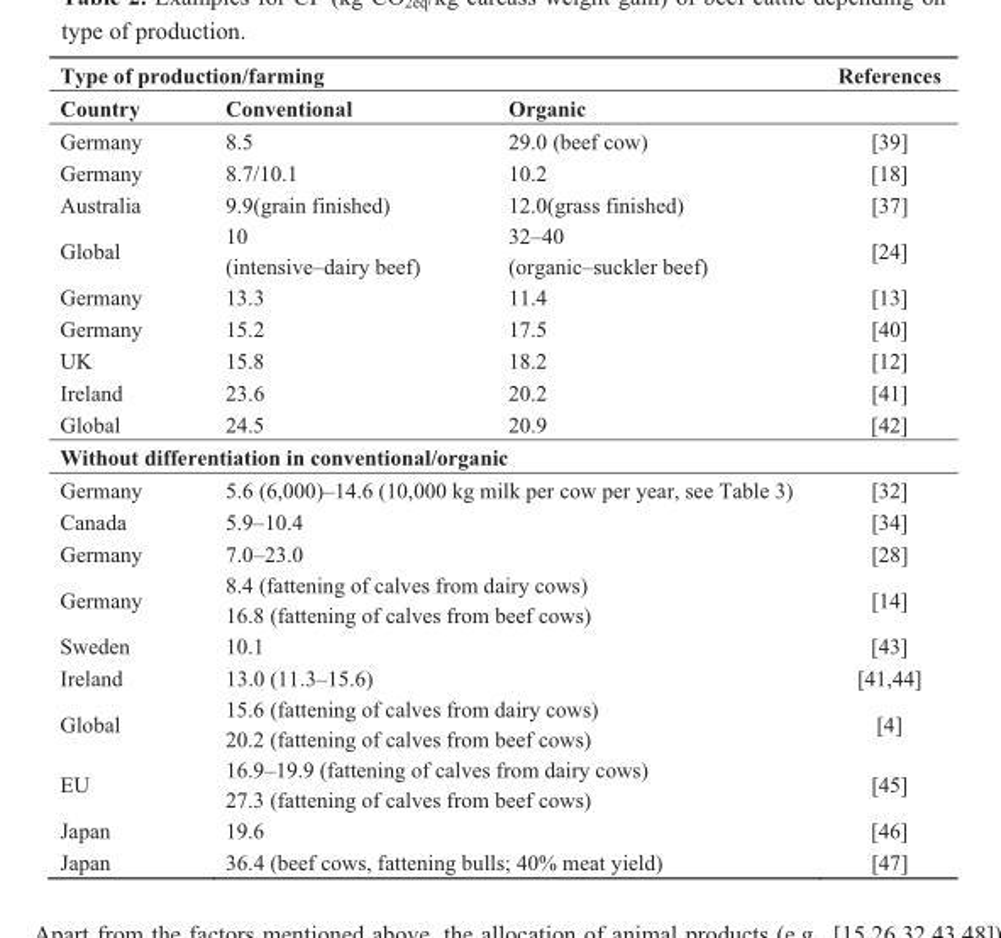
<table><thead><tr><td colspan="3">Type of production/farming</td><td rowspan="2">References</td></tr><tr><td>Country</td><td>Conventional</td><td>Organic</td></tr></thead><tbody><tr><td>Germany</td><td>8.5</td><td>29.0 (beef cow)</td><td>[39]</td></tr><tr><td>Germany</td><td>8.7/10.1</td><td>10.2</td><td>[18]</td></tr><tr><td>Australia</td><td>9.9(grain finished)</td><td>12.0(grass finished)</td><td>[37]</td></tr><tr><td rowspan="2">Global</td><td>10</td><td>32–40</td><td rowspan="2">[24]</td></tr><tr><td>(intensive–dairy beef)</td><td>(organic–suckler beef)</td></tr><tr><td>Germany</td><td>13.3</td><td>11.4</td><td>[13]</td></tr><tr><td>Germany</td><td>15.2</td><td>17.5</td><td>[40]</td></tr><tr><td>UK</td><td>15.8</td><td>18.2</td><td>[12]</td></tr><tr><td>Ireland</td><td>23.6</td><td>20.2</td><td>[41]</td></tr><tr><td>Global</td><td>24.5</td><td>20.9</td><td>[42]</td></tr><tr><td colspan="4">Without differentiation in conventional/organic</td></tr><tr><td>Germany</td><td colspan="2">5.6 (6,000)–14.6 (10,000 kg milk per cow per year, see Table 3)</td><td>[32]</td></tr><tr><td>Canada</td><td colspan="2">5.9–10.4</td><td>[34]</td></tr><tr><td>Germany</td><td colspan="2">7.0–23.0</td><td>[28]</td></tr><tr><td rowspan="2">Germany</td><td colspan="2">8.4 (fattening of calves from dairy cows)</td><td rowspan="2">[14]</td></tr><tr><td colspan="2">16.8 (fattening of calves from beef cows)</td></tr><tr><td>Sweden</td><td colspan="2">10.1</td><td>[43]</td></tr><tr><td>Ireland</td><td colspan="2">13.0 (11.3–15.6)</td><td>[41,44]</td></tr><tr><td rowspan="2">Global</td><td colspan="2">15.6 (fattening of calves from dairy cows)</td><td rowspan="2">[4]</td></tr><tr><td colspan="2">20.2 (fattening of calves from beef cows)</td></tr><tr><td rowspan="2">EU</td><td colspan="2">16.9–19.9 (fattening of calves from dairy cows)</td><td rowspan="2">[45]</td></tr><tr><td colspan="2">27.3 (fattening of calves from beef cows)</td></tr><tr><td>Japan</td><td colspan="2">19.6</td><td>[46]</td></tr><tr><td>Japan</td><td colspan="2">36.4 (beef cows, fattening bulls; 40% meat yield)</td><td>[47]</td></tr></tbody></table>